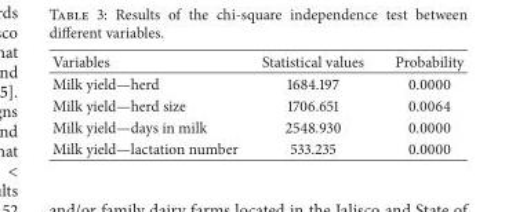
<table><thead><tr><td>Variables</td><td>Statistical values</td><td>Probability</td></tr></thead><tbody><tr><td>Milk yield—herd</td><td>1684.197</td><td>0.0000</td></tr><tr><td>Milk yield—herd size</td><td>1706.651</td><td>0.0064</td></tr><tr><td>Milk yield—days in milk</td><td>2548.930</td><td>0.0000</td></tr><tr><td>Milk yield—lactation number</td><td>533.235</td><td>0.0000</td></tr></tbody></table>